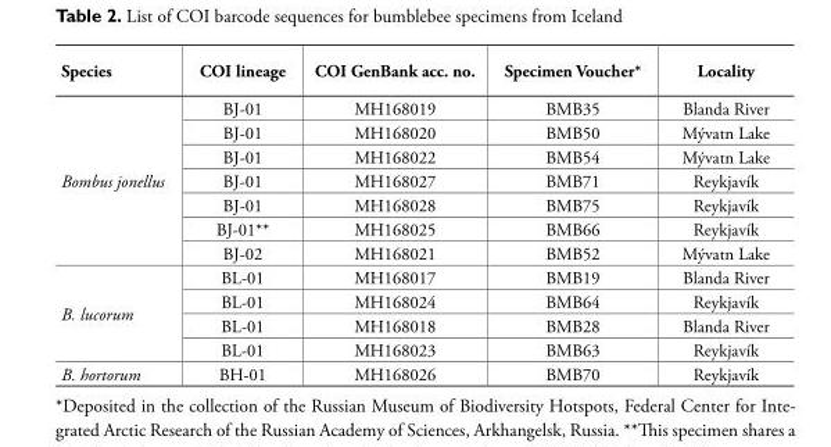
<table><thead><tr><td>Species</td><td>COI lineage</td><td>COI GenBank acc. no.</td><td>Specimen Voucher*</td><td>Locality</td></tr></thead><tbody><tr><td rowspan="7">Bombus jonellus</td><td>BJ-01</td><td>MH168019</td><td>BMB35</td><td>Blanda River</td></tr><tr><td>BJ-01</td><td>MH168020</td><td>BMB50</td><td>Mývatn Lake</td></tr><tr><td>BJ-01</td><td>MH168022</td><td>BMB54</td><td>Mývatn Lake</td></tr><tr><td>BJ-01</td><td>MH168027</td><td>BMB71</td><td>Reykjavík</td></tr><tr><td>BJ-01</td><td>MH168028</td><td>BMB75</td><td>Reykjavík</td></tr><tr><td>BJ-01**</td><td>MH168025</td><td>BMB66</td><td>Reykjavík</td></tr><tr><td>BJ-02</td><td>MH168021</td><td>BMB52</td><td>Mývatn Lake</td></tr><tr><td rowspan="4">B. lucorum</td><td>BL-01</td><td>MH168017</td><td>BMB19</td><td>Blanda River</td></tr><tr><td>BL-01</td><td>MH168024</td><td>BMB64</td><td>Reykjavík</td></tr><tr><td>BL-01</td><td>MH168018</td><td>BMB28</td><td>Blanda River</td></tr><tr><td>BL-01</td><td>MH168023</td><td>BMB63</td><td>Reykjavík</td></tr><tr><td>B. hortorum</td><td>BH-01</td><td>MH168026</td><td>BMB70</td><td>Reykjavík</td></tr></tbody></table>